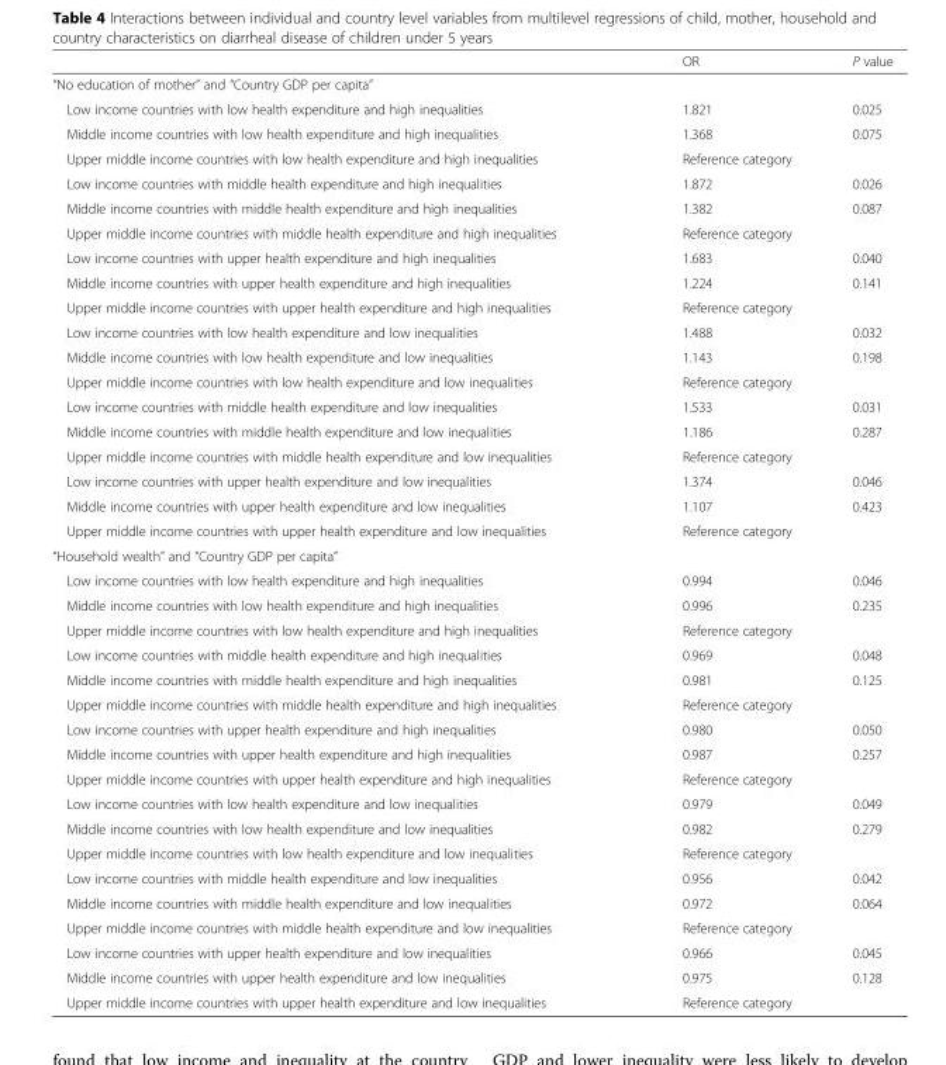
<table><thead><tr><td></td><td>OR</td><td>P value</td></tr></thead><tbody><tr><td colspan="3">“No education of mother” and “Country GDP per capita”</td></tr><tr><td>Low income countries with low health expenditure and high inequalities</td><td>1.821</td><td>0.025</td></tr><tr><td>Middle income countries with low health expenditure and high inequalities</td><td>1.368</td><td>0.075</td></tr><tr><td>Upper middle income countries with low health expenditure and high inequalities</td><td colspan="2">Reference category</td></tr><tr><td>Low income countries with middle health expenditure and high inequalities</td><td>1.872</td><td>0.026</td></tr><tr><td>Middle income countries with middle health expenditure and high inequalities</td><td>1.382</td><td>0.087</td></tr><tr><td>Upper middle income countries with middle health expenditure and high inequalities</td><td colspan="2">Reference category</td></tr><tr><td>Low income countries with upper health expenditure and high inequalities</td><td>1.683</td><td>0.040</td></tr><tr><td>Middle income countries with upper health expenditure and high inequalities</td><td>1.224</td><td>0.141</td></tr><tr><td>Upper middle income countries with upper health expenditure and high inequalities</td><td colspan="2">Reference category</td></tr><tr><td>Low income countries with low health expenditure and low inequalities</td><td>1.488</td><td>0.032</td></tr><tr><td>Middle income countries with low health expenditure and low inequalities</td><td>1.143</td><td>0.198</td></tr><tr><td>Upper middle income countries with low health expenditure and low inequalities</td><td colspan="2">Reference category</td></tr><tr><td>Low income countries with middle health expenditure and low inequalities</td><td>1.533</td><td>0.031</td></tr><tr><td>Middle income countries with middle health expenditure and low inequalities</td><td>1.186</td><td>0.287</td></tr><tr><td>Upper middle income countries with middle health expenditure and low inequalities</td><td colspan="2">Reference category</td></tr><tr><td>Low income countries with upper health expenditure and low inequalities</td><td>1.374</td><td>0.046</td></tr><tr><td>Middle income countries with upper health expenditure and low inequalities</td><td>1.107</td><td>0.423</td></tr><tr><td>Upper middle income countries with upper health expenditure and low inequalities</td><td colspan="2">Reference category</td></tr><tr><td colspan="3">“Household wealth” and “Country GDP per capita”</td></tr><tr><td>Low income countries with low health expenditure and high inequalities</td><td>0.994</td><td>0.046</td></tr><tr><td>Middle income countries with low health expenditure and high inequalities</td><td>0.996</td><td>0.235</td></tr><tr><td>Upper middle income countries with low health expenditure and high inequalities</td><td colspan="2">Reference category</td></tr><tr><td>Low income countries with middle health expenditure and high inequalities</td><td>0.969</td><td>0.048</td></tr><tr><td>Middle income countries with middle health expenditure and high inequalities</td><td>0.981</td><td>0.125</td></tr><tr><td>Upper middle income countries with middle health expenditure and high inequalities</td><td colspan="2">Reference category</td></tr><tr><td>Low income countries with upper health expenditure and high inequalities</td><td>0.980</td><td>0.050</td></tr><tr><td>Middle income countries with upper health expenditure and high inequalities</td><td>0.987</td><td>0.257</td></tr><tr><td>Upper middle income countries with upper health expenditure and high inequalities</td><td colspan="2">Reference category</td></tr><tr><td>Low income countries with low health expenditure and low inequalities</td><td>0.979</td><td>0.049</td></tr><tr><td>Middle income countries with low health expenditure and low inequalities</td><td>0.982</td><td>0.279</td></tr><tr><td>Upper middle income countries with low health expenditure and low inequalities</td><td colspan="2">Reference category</td></tr><tr><td>Low income countries with middle health expenditure and low inequalities</td><td>0.956</td><td>0.042</td></tr><tr><td>Middle income countries with middle health expenditure and low inequalities</td><td>0.972</td><td>0.064</td></tr><tr><td>Upper middle income countries with middle health expenditure and low inequalities</td><td colspan="2">Reference category</td></tr><tr><td>Low income countries with upper health expenditure and low inequalities</td><td>0.966</td><td>0.045</td></tr><tr><td>Middle income countries with upper health expenditure and low inequalities</td><td>0.975</td><td>0.128</td></tr><tr><td>Upper middle income countries with upper health expenditure and low inequalities</td><td colspan="2">Reference category</td></tr></tbody></table>